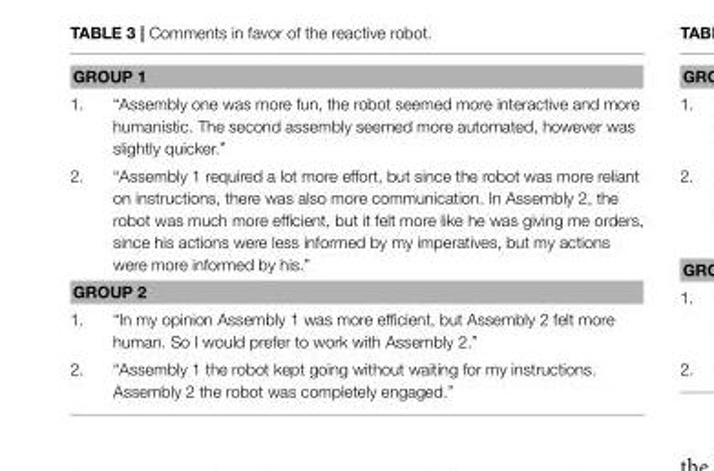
<table><tbody><tr><td colspan="2">GROUP 1</td></tr><tr><td>1.</td><td>“Assembly one was more fun, the robot seemed more interactive and more humanistic. The second assembly seemed more automated, however was slightly quicker.”</td></tr><tr><td>2.</td><td>“Assembly 1 required a lot more effort, but since the robot was more reliant on instructions, there was also more communication. In Assembly 2, the robot was much more efficient, but it felt more like he was giving me orders, since his actions were less informed by my imperatives, but my actions were more informed by his.”</td></tr><tr><td colspan="2">GROUP 2</td></tr><tr><td>1.</td><td>“In my opinion Assembly 1 was more efficient, but Assembly 2 felt more human. So I would prefer to work with Assembly 2.”</td></tr><tr><td>2.</td><td>“Assembly 1 the robot kept going without waiting for my instructions. Assembly 2 the robot was completely engaged.”</td></tr></tbody></table>